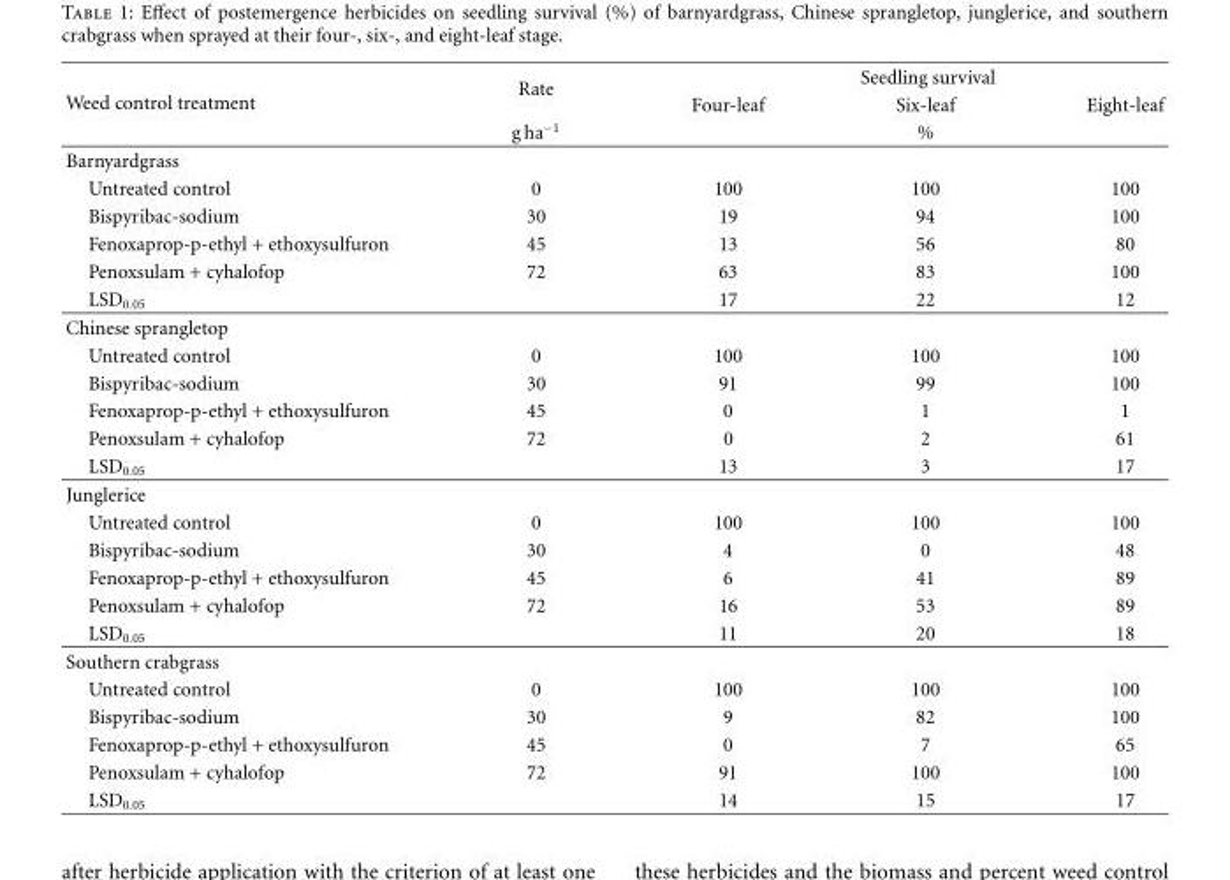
<table><thead><tr><td rowspan="3">Weed control treatment</td><td rowspan="3">Rate g ha<sup>−1</sup></td><td colspan="3">Seedling survival</td></tr><tr><td rowspan="2">Four-leaf</td><td rowspan="2">Six-leaf %</td><td rowspan="2">Eight-leaf</td></tr><tr></tr></thead><tbody><tr><td colspan="5">Barnyardgrass</td></tr><tr><td>Untreated control</td><td>0</td><td>100</td><td>100</td><td>100</td></tr><tr><td>Bispyribac-sodium</td><td>30</td><td>19</td><td>94</td><td>100</td></tr><tr><td>Fenoxaprop-p-ethyl + ethoxysulfuron</td><td>45</td><td>13</td><td>56</td><td>80</td></tr><tr><td>Penoxsulam + cyhalofop</td><td>72</td><td>63</td><td>83</td><td>100</td></tr><tr><td>LSD<sub>0.05</sub></td><td></td><td>17</td><td>22</td><td>12</td></tr><tr><td colspan="5">Chinese sprangletop</td></tr><tr><td>Untreated control</td><td>0</td><td>100</td><td>100</td><td>100</td></tr><tr><td>Bispyribac-sodium</td><td>30</td><td>91</td><td>99</td><td>100</td></tr><tr><td>Fenoxaprop-p-ethyl + ethoxysulfuron</td><td>45</td><td>0</td><td>1</td><td>1</td></tr><tr><td>Penoxsulam + cyhalofop</td><td>72</td><td>0</td><td>2</td><td>61</td></tr><tr><td>LSD<sub>0.05</sub></td><td></td><td>13</td><td>3</td><td>17</td></tr><tr><td colspan="5">Junglerice</td></tr><tr><td>Untreated control</td><td>0</td><td>100</td><td>100</td><td>100</td></tr><tr><td>Bispyribac-sodium</td><td>30</td><td>4</td><td>0</td><td>48</td></tr><tr><td>Fenoxaprop-p-ethyl + ethoxysulfuron</td><td>45</td><td>6</td><td>41</td><td>89</td></tr><tr><td>Penoxsulam + cyhalofop</td><td>72</td><td>16</td><td>53</td><td>89</td></tr><tr><td>LSD<sub>0.05</sub></td><td></td><td>11</td><td>20</td><td>18</td></tr><tr><td colspan="5">Southern crabgrass</td></tr><tr><td>Untreated control</td><td>0</td><td>100</td><td>100</td><td>100</td></tr><tr><td>Bispyribac-sodium</td><td>30</td><td>9</td><td>82</td><td>100</td></tr><tr><td>Fenoxaprop-p-ethyl + ethoxysulfuron</td><td>45</td><td>0</td><td>7</td><td>65</td></tr><tr><td>Penoxsulam + cyhalofop</td><td>72</td><td>91</td><td>100</td><td>100</td></tr><tr><td>LSD<sub>0.05</sub></td><td></td><td>14</td><td>15</td><td>17</td></tr></tbody></table>